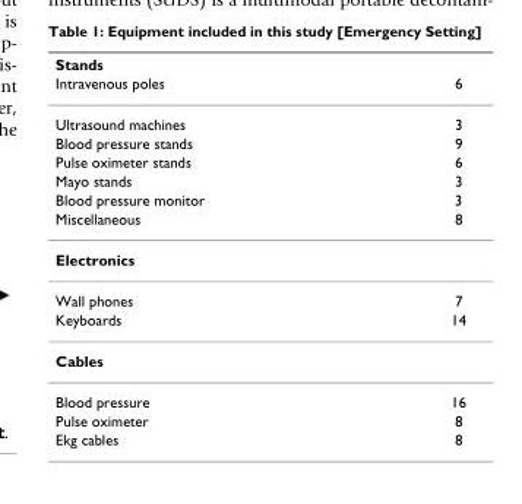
<table><thead><tr><td rowspan="2">Stands Intravenous poles</td><td rowspan="2">6</td></tr><tr></tr></thead><tbody><tr><td>Ultrasound machines</td><td>3</td></tr><tr><td>Blood pressure stands</td><td>9</td></tr><tr><td>Pulse oximeter stands</td><td>6</td></tr><tr><td>Mayo stands</td><td>3</td></tr><tr><td>Blood pressure monitor</td><td>3</td></tr><tr><td>Miscellaneous</td><td>8</td></tr><tr><td colspan="2">Electronics</td></tr><tr><td>Wall phones</td><td>7</td></tr><tr><td>Keyboards</td><td>14</td></tr><tr><td colspan="2">Cables</td></tr><tr><td>Blood pressure</td><td>16</td></tr><tr><td>Pulse oximeter</td><td>8</td></tr><tr><td>Ekg cables</td><td>8</td></tr></tbody></table>